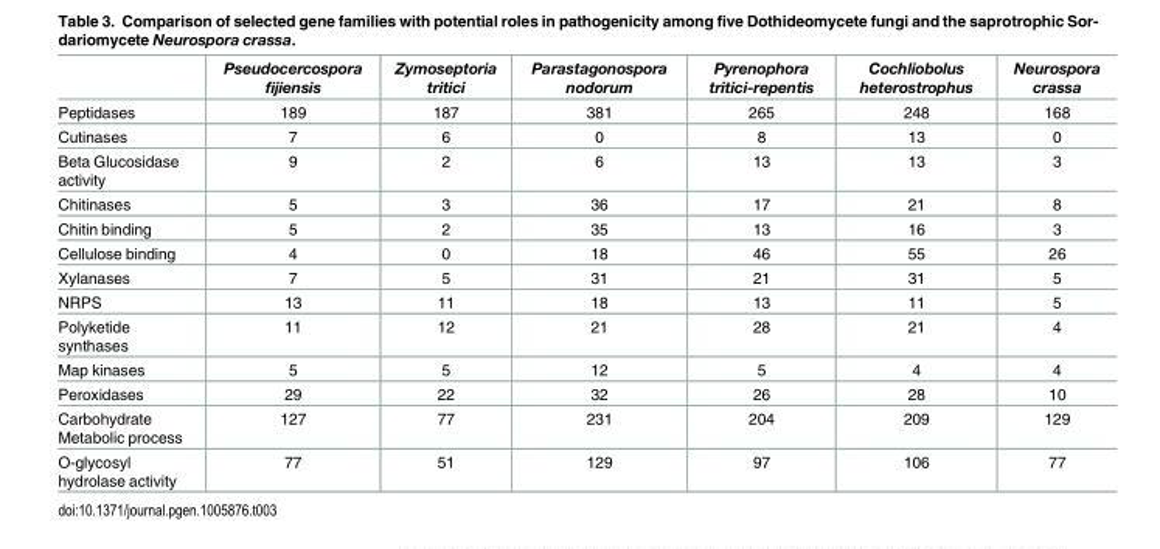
<table><thead><tr><td></td><td>Pseudocercospora fijiensis</td><td>Zymoseptoria tritici</td><td>Parastagonospora nodorum</td><td>Pyrenophora tritici-repentis</td><td>Cochliobolus heterostrophus</td><td>Neurospora crassa</td></tr></thead><tbody><tr><td>Peptidases</td><td>189</td><td>187</td><td>381</td><td>265</td><td>248</td><td>168</td></tr><tr><td>Cutinases</td><td>7</td><td>6</td><td>0</td><td>8</td><td>13</td><td>0</td></tr><tr><td>Beta Glucosidase activity</td><td>9</td><td>2</td><td>6</td><td>13</td><td>13</td><td>3</td></tr><tr><td>Chitinases</td><td>5</td><td>3</td><td>36</td><td>17</td><td>21</td><td>8</td></tr><tr><td>Chitin binding</td><td>5</td><td>2</td><td>35</td><td>13</td><td>16</td><td>3</td></tr><tr><td>Cellulose binding</td><td>4</td><td>0</td><td>18</td><td>46</td><td>55</td><td>26</td></tr><tr><td>Xylanases</td><td>7</td><td>5</td><td>31</td><td>21</td><td>31</td><td>5</td></tr><tr><td>NRPS</td><td>13</td><td>11</td><td>18</td><td>13</td><td>11</td><td>5</td></tr><tr><td>Polyketide synthases</td><td>11</td><td>12</td><td>21</td><td>28</td><td>21</td><td>4</td></tr><tr><td>Map kinases</td><td>5</td><td>5</td><td>12</td><td>5</td><td>4</td><td>4</td></tr><tr><td>Peroxidases</td><td>29</td><td>22</td><td>32</td><td>26</td><td>28</td><td>10</td></tr><tr><td>Carbohydrate Metabolic process</td><td>127</td><td>77</td><td>231</td><td>204</td><td>209</td><td>129</td></tr><tr><td>O-glycosyl hydrolase activity</td><td>77</td><td>51</td><td>129</td><td>97</td><td>106</td><td>77</td></tr></tbody></table>